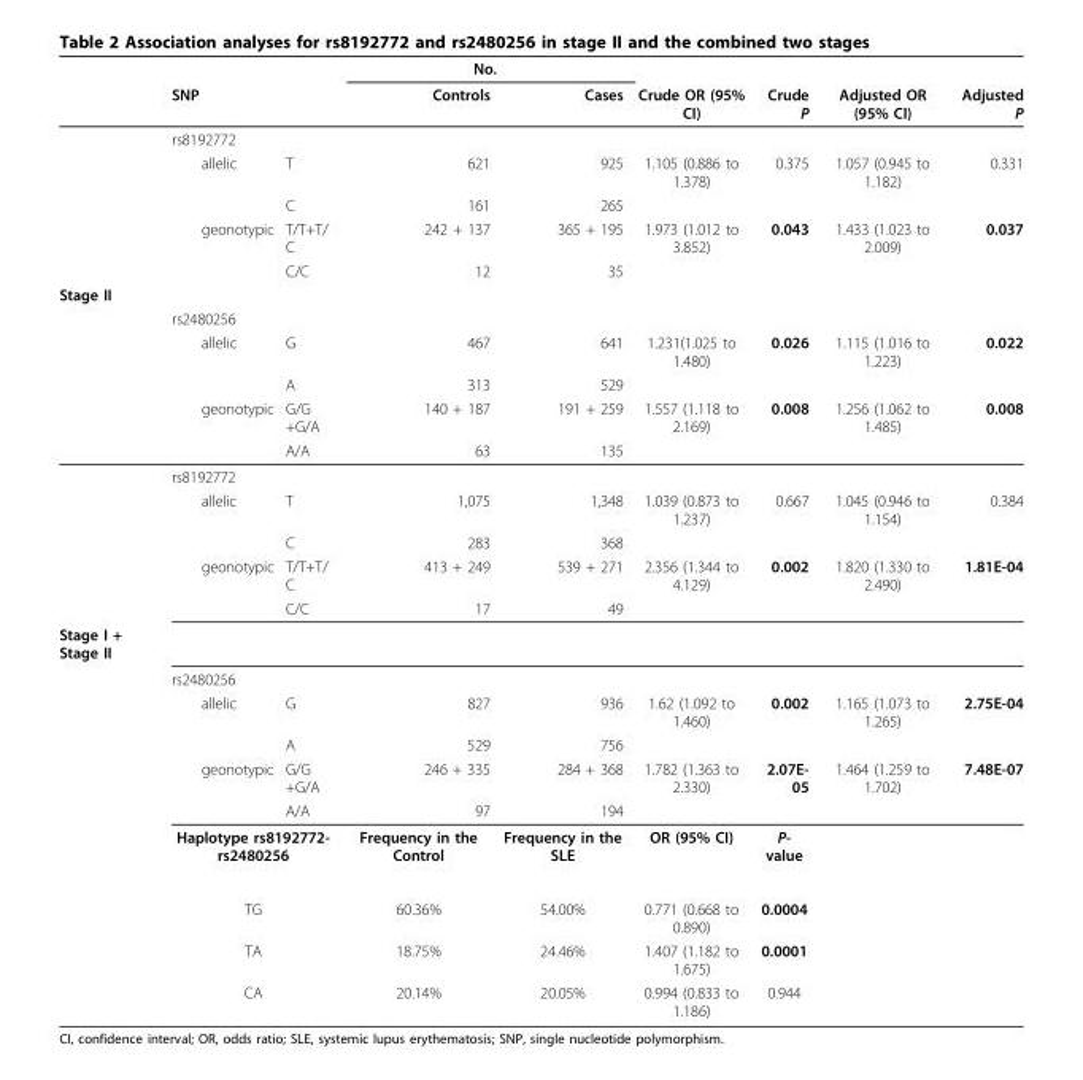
<table><thead><tr><td rowspan="2"></td><td rowspan="2">SNP</td><td rowspan="2"></td><td colspan="2">No.</td><td rowspan="2">Crude OR (95% CI)</td><td rowspan="2">Crude P</td><td rowspan="2">Adjusted OR (95% CI)</td><td rowspan="2">Adjusted P</td></tr><tr><td>Controls</td><td>Cases</td></tr></thead><tbody><tr><td></td><td>rs8192772</td><td></td><td></td><td></td><td></td><td></td><td></td><td></td></tr><tr><td></td><td>allelic</td><td>T</td><td>621</td><td>925</td><td>1.105 (0.886 to 1.378)</td><td>0.375</td><td>1.057 (0.945 to 1.182)</td><td>0.331</td></tr><tr><td></td><td></td><td>C</td><td>161</td><td>265</td><td></td><td></td><td></td><td></td></tr><tr><td></td><td>geonotypic</td><td>T/T+T/ C</td><td>242 + 137</td><td>365 + 195</td><td>1.973 (1.012 to 3.852)</td><td>0.043</td><td>1.433 (1.023 to 2.009)</td><td>0.037</td></tr><tr><td></td><td></td><td>C/C</td><td>12</td><td>35</td><td></td><td></td><td></td><td></td></tr><tr><td colspan="9">Stage II</td></tr><tr><td></td><td>rs2480256</td><td></td><td></td><td></td><td></td><td></td><td></td><td></td></tr><tr><td></td><td>allelic</td><td>G</td><td>467</td><td>641</td><td>1.231(1.025 to 1.480)</td><td>0.026</td><td>1.115 (1.016 to 1.223)</td><td>0.022</td></tr><tr><td></td><td></td><td>A</td><td>313</td><td>529</td><td></td><td></td><td></td><td></td></tr><tr><td></td><td>geonotypic</td><td>G/G +G/A</td><td>140 + 187</td><td>191 + 259</td><td>1.557 (1.118 to 2.169)</td><td>0.008</td><td>1.256 (1.062 to 1.485)</td><td>0.008</td></tr><tr><td></td><td></td><td>A/A</td><td>63</td><td>135</td><td></td><td></td><td></td><td></td></tr><tr><td></td><td>rs8192772</td><td></td><td></td><td></td><td></td><td></td><td></td><td></td></tr><tr><td></td><td>allelic</td><td>T</td><td>1,075</td><td>1,348</td><td>1.039 (0.873 to 1.237)</td><td>0.667</td><td>1.045 (0.946 to 1.154)</td><td>0.384</td></tr><tr><td></td><td></td><td>C</td><td>283</td><td>368</td><td></td><td></td><td></td><td></td></tr><tr><td></td><td>geonotypic</td><td>T/T+T/ C</td><td>413 + 249</td><td>539 + 271</td><td>2.356 (1.344 to 4.129)</td><td>0.002</td><td>1.820 (1.330 to 2.490)</td><td>1.81E-04</td></tr><tr><td></td><td></td><td>C/C</td><td>17</td><td>49</td><td></td><td></td><td></td><td></td></tr><tr><td colspan="9">Stage I + Stage II</td></tr><tr><td></td><td>rs2480256</td><td></td><td></td><td></td><td></td><td></td><td></td><td></td></tr><tr><td></td><td>allelic</td><td>G</td><td>827</td><td>936</td><td>1.62 (1.092 to 1.460)</td><td>0.002</td><td>1.165 (1.073 to 1.265)</td><td>2.75E-04</td></tr><tr><td></td><td></td><td>A</td><td>529</td><td>756</td><td></td><td></td><td></td><td></td></tr><tr><td></td><td>geonotypic</td><td>G/G +G/A</td><td>246 + 335</td><td>284 + 368</td><td>1.782 (1.363 to 2.330)</td><td>2.07E- 05</td><td>1.464 (1.259 to 1.702)</td><td>7.48E-07</td></tr><tr><td></td><td></td><td>A/A</td><td>97</td><td>194</td><td></td><td></td><td></td><td></td></tr><tr><td></td><td colspan="2">Haplotype rs8192772- rs2480256</td><td>Frequency in the Control</td><td>Frequency in the SLE</td><td>OR (95% CI)</td><td>P- value</td><td></td><td></td></tr><tr><td></td><td colspan="2">TG</td><td>60.36%</td><td>54.00%</td><td>0.771 (0.668 to 0.890)</td><td>0.0004</td><td></td><td></td></tr><tr><td></td><td colspan="2">TA</td><td>18.75%</td><td>24.46%</td><td>1.407 (1.182 to 1.675)</td><td>0.0001</td><td></td><td></td></tr><tr><td></td><td colspan="2">CA</td><td>20.14%</td><td>20.05%</td><td>0.994 (0.833 to 1.186)</td><td>0.944</td><td></td><td></td></tr></tbody></table>